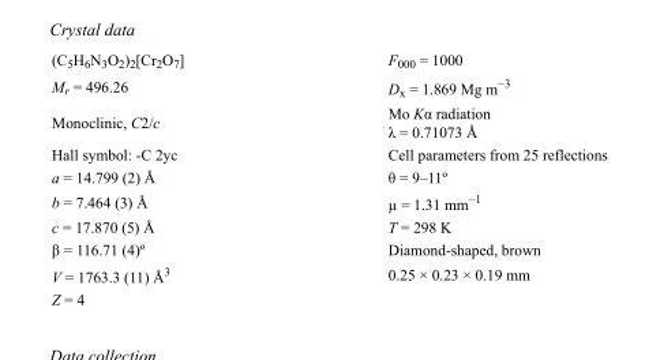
<table><tbody><tr><td>(C<sub>5</sub>H<sub>6</sub>N<sub>3</sub>O<sub>2</sub>)<sub>2</sub>[Cr<sub>2</sub>O<sub>7</sub>]</td><td>F000 = 1000</td></tr><tr><td>M<sub>r</sub> = 496.26</td><td>D<sub>x</sub> = 1.869 Mg m<sup>−3</sup></td></tr><tr><td>Monoclinic, C2/c</td><td>Mo Kα radiation λ = 0.71073 Å</td></tr><tr><td>Hall symbol: -C 2yc</td><td>Cell parameters from 25 reflections</td></tr><tr><td>a = 14.799 (2) Å</td><td>θ = 9–11º</td></tr><tr><td>b = 7.464 (3) Å</td><td>µ = 1.31 mm<sup>−1</sup></td></tr><tr><td>c = 17.870 (5) Å</td><td>T = 298 K</td></tr><tr><td>β = 116.71 (4)º</td><td>Diamond-shaped, brown</td></tr><tr><td>V = 1763.3 (11) Å<sup>3</sup></td><td>0.25 × 0.23 × 0.19 mm</td></tr><tr><td>Z = 4</td><td></td></tr></tbody></table>